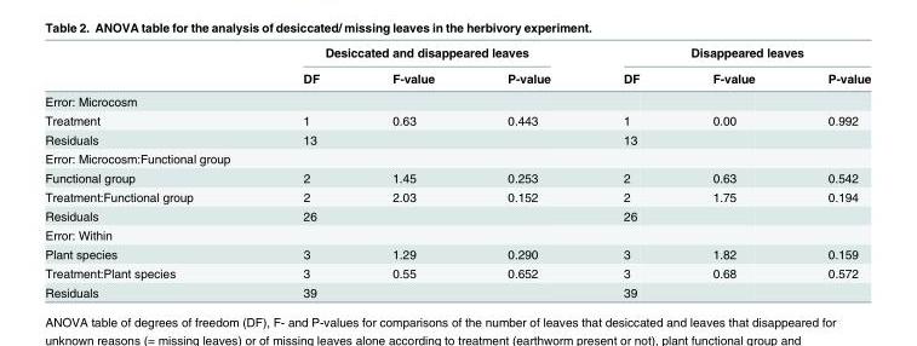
<table><thead><tr><td rowspan="2"></td><td colspan="3">Desiccated and disappeared leaves</td><td colspan="3">Disappeared leaves</td></tr><tr><td>DF</td><td>F-value</td><td>P-value</td><td>DF</td><td>F-value</td><td>P-value</td></tr></thead><tbody><tr><td colspan="7">Error: Microcosm</td></tr><tr><td>Treatment</td><td>1</td><td>0.63</td><td>0.443</td><td>1</td><td>0.00</td><td>0.992</td></tr><tr><td>Residuals</td><td>13</td><td></td><td></td><td>13</td><td></td><td></td></tr><tr><td colspan="7">Error: Microcosm:Functional group</td></tr><tr><td>Functional group</td><td>2</td><td>1.45</td><td>0.253</td><td>2</td><td>0.63</td><td>0.542</td></tr><tr><td>Treatment:Functional group</td><td>2</td><td>2.03</td><td>0.152</td><td>2</td><td>1.75</td><td>0.194</td></tr><tr><td>Residuals</td><td>26</td><td></td><td></td><td>26</td><td></td><td></td></tr><tr><td colspan="7">Error: Within</td></tr><tr><td>Plant species</td><td>3</td><td>1.29</td><td>0.290</td><td>3</td><td>1.82</td><td>0.159</td></tr><tr><td>Treatment:Plant species</td><td>3</td><td>0.55</td><td>0.652</td><td>3</td><td>0.68</td><td>0.572</td></tr><tr><td>Residuals</td><td>39</td><td></td><td></td><td>39</td><td></td><td></td></tr></tbody></table>